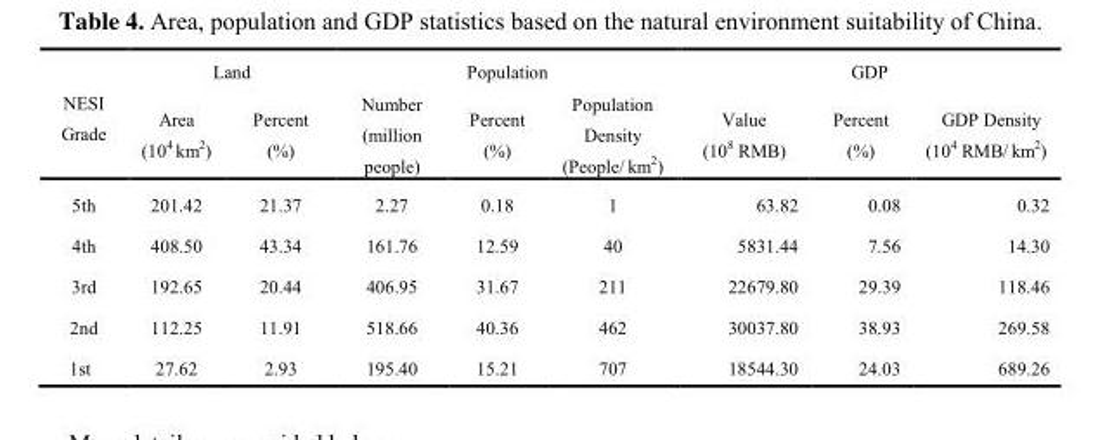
<table><thead><tr><td rowspan="2">NESI Grade</td><td colspan="2">Land</td><td colspan="3">Population</td><td colspan="3">GDP</td></tr><tr><td>Area (10<sup>4</sup> km<sup>2</sup>)</td><td>Percent (%)</td><td>Number (million people)</td><td>Percent (%)</td><td>Population Density (People/ km<sup>2</sup>)</td><td>Value (10<sup>8</sup> RMB)</td><td>Percent (%)</td><td>GDP Density (10<sup>4</sup> RMB/ km<sup>2</sup>)</td></tr></thead><tbody><tr><td>5th</td><td>201.42</td><td>21.37</td><td>2.27</td><td>0.18</td><td>1</td><td>63.82</td><td>0.08</td><td>0.32</td></tr><tr><td>4th</td><td>408.50</td><td>43.34</td><td>161.76</td><td>12.59</td><td>40</td><td>5831.44</td><td>7.56</td><td>14.30</td></tr><tr><td>3rd</td><td>192.65</td><td>20.44</td><td>406.95</td><td>31.67</td><td>211</td><td>22679.80</td><td>29.39</td><td>118.46</td></tr><tr><td>2nd</td><td>112.25</td><td>11.91</td><td>518.66</td><td>40.36</td><td>462</td><td>30037.80</td><td>38.93</td><td>269.58</td></tr><tr><td>1st</td><td>27.62</td><td>2.93</td><td>195.40</td><td>15.21</td><td>707</td><td>18544.30</td><td>24.03</td><td>689.26</td></tr></tbody></table>